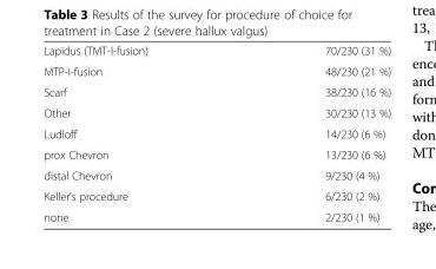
<table><tbody><tr><td>Lapidus (TMT-I-fusion)</td><td>70/230 (31 %)</td></tr><tr><td>MTP-I-fusion</td><td>48/230 (21 %)</td></tr><tr><td>Scarf</td><td>38/230 (16 %)</td></tr><tr><td>Other</td><td>30/230 (13 %)</td></tr><tr><td>Ludloff</td><td>14/230 (6 %)</td></tr><tr><td>prox Chevron</td><td>13/230 (6 %)</td></tr><tr><td>distal Chevron</td><td>9/230 (4 %)</td></tr><tr><td>Keller’s procedure</td><td>6/230 (2 %)</td></tr><tr><td>none</td><td>2/230 (1 %)</td></tr></tbody></table>